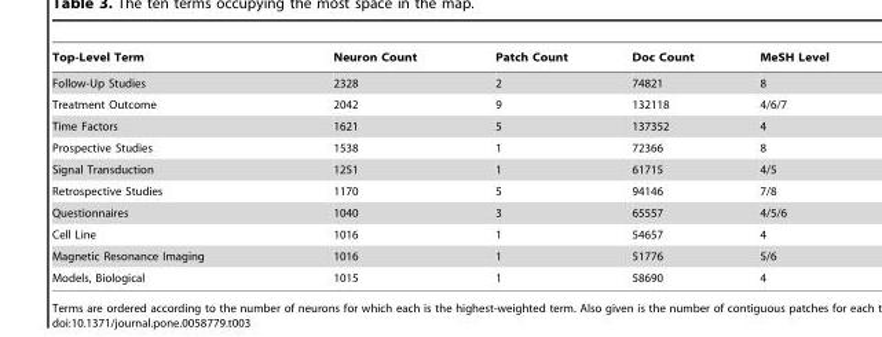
<table><thead><tr><td>Top-Level Term</td><td>Neuron Count</td><td>Patch Count</td><td>Doc Count</td><td>MeSH Level</td></tr></thead><tbody><tr><td>Follow-Up Studies</td><td>2328</td><td>2</td><td>74821</td><td>8</td></tr><tr><td>Treatment Outcome</td><td>2042</td><td>9</td><td>132118</td><td>4/6/7</td></tr><tr><td>Time Factors</td><td>1621</td><td>5</td><td>137352</td><td>4</td></tr><tr><td>Prospective Studies</td><td>1538</td><td>1</td><td>72366</td><td>8</td></tr><tr><td>Signal Transduction</td><td>1251</td><td>1</td><td>61715</td><td>4/5</td></tr><tr><td>Retrospective Studies</td><td>1170</td><td>5</td><td>94146</td><td>7/8</td></tr><tr><td>Questionnaires</td><td>1040</td><td>3</td><td>65557</td><td>4/5/6</td></tr><tr><td>Cell Line</td><td>1016</td><td>1</td><td>54657</td><td>4</td></tr><tr><td>Magnetic Resonance Imaging</td><td>1016</td><td>1</td><td>51776</td><td>5/6</td></tr><tr><td>Models, Biological</td><td>1015</td><td>1</td><td>58690</td><td>4</td></tr></tbody></table>